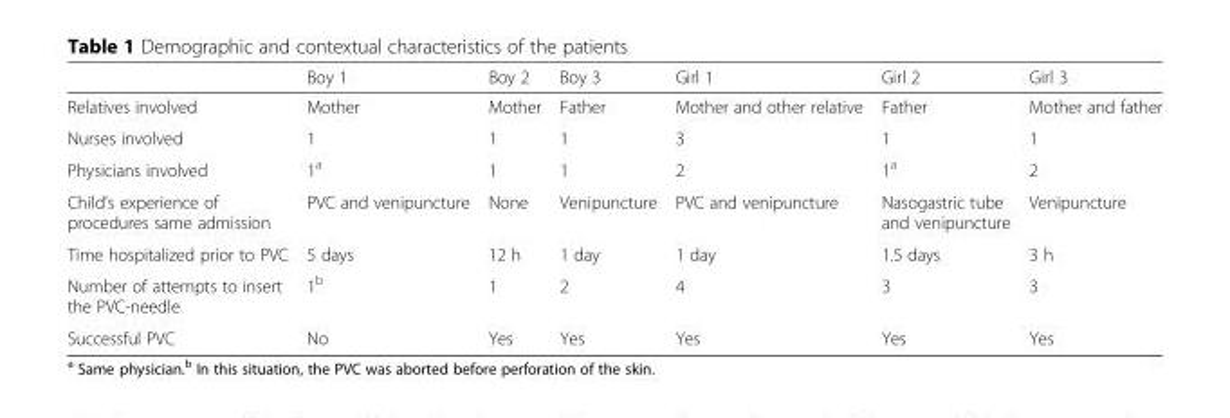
<table><thead><tr><td></td><td>Boy 1</td><td>Boy 2</td><td>Boy 3</td><td>Girl 1</td><td>Girl 2</td><td>Girl 3</td></tr></thead><tbody><tr><td>Relatives involved</td><td>Mother</td><td>Mother</td><td>Father</td><td>Mother and other relative</td><td>Father</td><td>Mother and father</td></tr><tr><td>Nurses involved</td><td>1</td><td>1</td><td>1</td><td>3</td><td>1</td><td>1</td></tr><tr><td>Physicians involved</td><td>1<sup>a</sup></td><td>1</td><td>1</td><td>2</td><td>1<sup>a</sup></td><td>2</td></tr><tr><td>Child’s experience of procedures same admission</td><td>PVC and venipuncture</td><td>None</td><td>Venipuncture</td><td>PVC and venipuncture</td><td>Nasogastric tube and venipuncture</td><td>Venipuncture</td></tr><tr><td>Time hospitalized prior to PVC</td><td>5 days</td><td>12 h</td><td>1 day</td><td>1 day</td><td>1.5 days</td><td>3 h</td></tr><tr><td>Number of attempts to insert the PVC-needle</td><td>1<sup>b</sup></td><td>1</td><td>2</td><td>4</td><td>3</td><td>3</td></tr><tr><td>Successful PVC</td><td>No</td><td>Yes</td><td>Yes</td><td>Yes</td><td>Yes</td><td>Yes</td></tr></tbody></table>